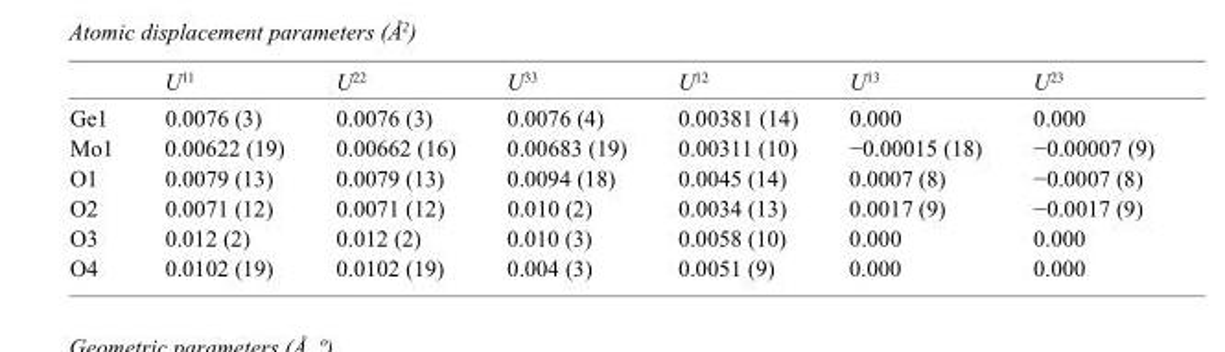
<table><thead><tr><td></td><td>U<sup>11</sup></td><td>U<sup>22</sup></td><td>U<sup>33</sup></td><td>U<sup>12</sup></td><td>U<sup>13</sup></td><td>U<sup>23</sup></td></tr></thead><tbody><tr><td>Ge1</td><td>0.0076 (3)</td><td>0.0076 (3)</td><td>0.0076 (4)</td><td>0.00381 (14)</td><td>0.000</td><td>0.000</td></tr><tr><td>Mo1</td><td>0.00622 (19)</td><td>0.00662 (16)</td><td>0.00683 (19)</td><td>0.00311 (10)</td><td>−0.00015 (18)</td><td>−0.00007 (9)</td></tr><tr><td>O1</td><td>0.0079 (13)</td><td>0.0079 (13)</td><td>0.0094 (18)</td><td>0.0045 (14)</td><td>0.0007 (8)</td><td>−0.0007 (8)</td></tr><tr><td>O2</td><td>0.0071 (12)</td><td>0.0071 (12)</td><td>0.010 (2)</td><td>0.0034 (13)</td><td>0.0017 (9)</td><td>−0.0017 (9)</td></tr><tr><td>O3</td><td>0.012 (2)</td><td>0.012 (2)</td><td>0.010 (3)</td><td>0.0058 (10)</td><td>0.000</td><td>0.000</td></tr><tr><td>O4</td><td>0.0102 (19)</td><td>0.0102 (19)</td><td>0.004 (3)</td><td>0.0051 (9)</td><td>0.000</td><td>0.000</td></tr></tbody></table>